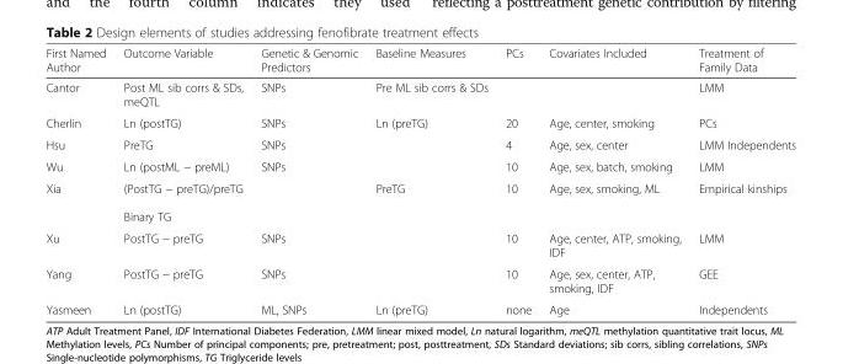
<table><thead><tr><td>First Named Author</td><td>Outcome Variable</td><td>Genetic &amp; Genomic Predictors</td><td>Baseline Measures</td><td>PCs</td><td>Covariates Included</td><td>Treatment of Family Data</td></tr></thead><tbody><tr><td>Cantor</td><td>Post ML sib corrs &amp; SDs, meQTL</td><td>SNPs</td><td>Pre ML sib corrs &amp; SDs</td><td></td><td></td><td>LMM</td></tr><tr><td>Cherlin</td><td>Ln (postTG)</td><td>SNPs</td><td>Ln (preTG)</td><td>20</td><td>Age, center, smoking</td><td>PCs</td></tr><tr><td>Hsu</td><td>PreTG</td><td>SNPs</td><td></td><td>4</td><td>Age, sex, center</td><td>LMM Independents</td></tr><tr><td>Wu</td><td>Ln (postML − preML)</td><td>SNPs</td><td></td><td>10</td><td>Age, sex, batch, smoking</td><td>LMM</td></tr><tr><td>Xia</td><td>(PostTG − preTG)/preTG Binary TG</td><td></td><td>PreTG</td><td>10</td><td>Age, sex, smoking, ML</td><td>Empirical kinships</td></tr><tr><td>Xu</td><td>PostTG − preTG</td><td>SNPs</td><td></td><td>10</td><td>Age, center, ATP, smoking, IDF</td><td>LMM</td></tr><tr><td>Yang</td><td>PostTG − preTG</td><td>SNPs</td><td></td><td>10</td><td>Age, sex, center, ATP, smoking, IDF</td><td>GEE</td></tr><tr><td>Yasmeen</td><td>Ln (postTG)</td><td>ML, SNPs</td><td>Ln (preTG)</td><td>none</td><td>Age</td><td>Independents</td></tr></tbody></table>